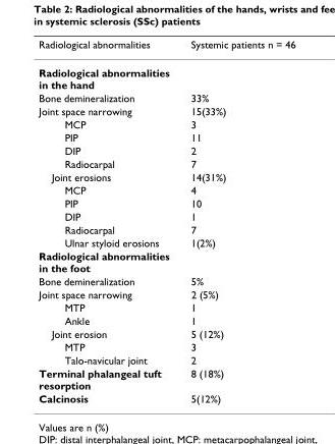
<table><thead><tr><td>Radiological abnormalities</td><td>Systemic patients n = 46</td></tr></thead><tbody><tr><td colspan="2">Radiological abnormalities in the hand</td></tr><tr><td>Bone demineralization</td><td>33%</td></tr><tr><td>Joint space narrowing</td><td>15(33%)</td></tr><tr><td>MCP</td><td>3</td></tr><tr><td>PIP</td><td>11</td></tr><tr><td>DIP</td><td>2</td></tr><tr><td>Radiocarpal</td><td>7</td></tr><tr><td>Joint erosions</td><td>14(31%)</td></tr><tr><td>MCP</td><td>4</td></tr><tr><td>PIP</td><td>10</td></tr><tr><td>DIP</td><td>1</td></tr><tr><td>Radiocarpal</td><td>7</td></tr><tr><td>Ulnar styloid erosions</td><td>1(2%)</td></tr><tr><td colspan="2">Radiological abnormalities in the foot</td></tr><tr><td>Bone demineralization</td><td>5%</td></tr><tr><td>Joint space narrowing</td><td>2 (5%)</td></tr><tr><td>MTP</td><td>1</td></tr><tr><td>Ankle</td><td>1</td></tr><tr><td>Joint erosion</td><td>5 (12%)</td></tr><tr><td>MTP</td><td>3</td></tr><tr><td>Talo-navicular joint</td><td>2</td></tr><tr><td>Terminal phalangeal tuft resorption</td><td>8 (18%)</td></tr><tr><td>Calcinosis</td><td>5(12%)</td></tr></tbody></table>